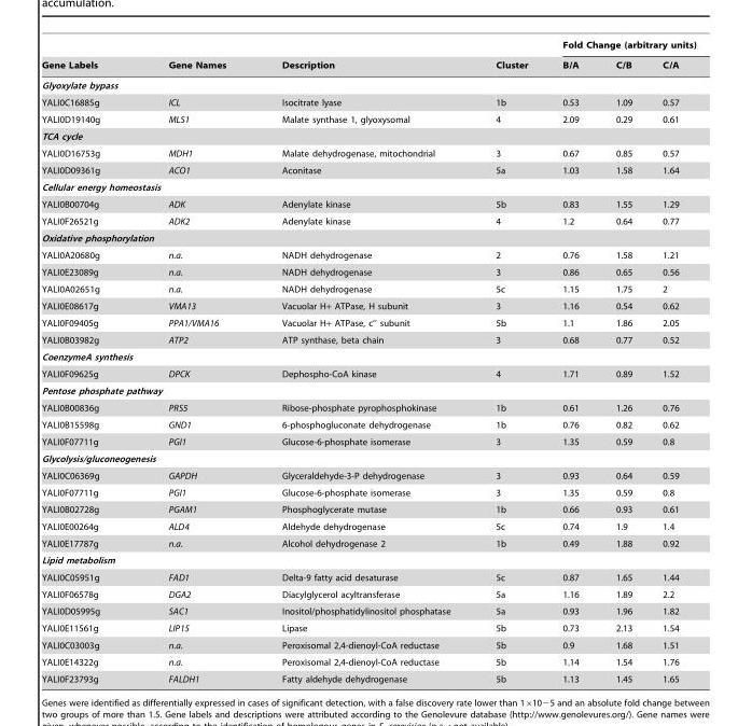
<table><thead><tr><td rowspan="2">Gene Labels</td><td rowspan="2">Gene Names</td><td rowspan="2">Description</td><td rowspan="2">Cluster</td><td colspan="3">Fold Change (arbitrary units)</td></tr><tr><td>B/A</td><td>C/B</td><td>C/A</td></tr></thead><tbody><tr><td colspan="7">Glyoxylate bypass</td></tr><tr><td>YALI0C16885g</td><td>ICL</td><td>Isocitrate lyase</td><td>1b</td><td>0.53</td><td>1.09</td><td>0.57</td></tr><tr><td>YALI0D19140g</td><td>MLS1</td><td>Malate synthase 1, glyoxysomal</td><td>4</td><td>2.09</td><td>0.29</td><td>0.61</td></tr><tr><td colspan="7">TCA cycle</td></tr><tr><td>YALI0D16753g</td><td>MDH1</td><td>Malate dehydrogenase, mitochondrial</td><td>3</td><td>0.67</td><td>0.85</td><td>0.57</td></tr><tr><td>YALI0D09361g</td><td>ACO1</td><td>Aconitase</td><td>5a</td><td>1.03</td><td>1.58</td><td>1.64</td></tr><tr><td colspan="7">Cellular energy homeostasis</td></tr><tr><td>YALI0B00704g</td><td>ADK</td><td>Adenylate kinase</td><td>5b</td><td>0.83</td><td>1.55</td><td>1.29</td></tr><tr><td>YALI0F26521g</td><td>ADK2</td><td>Adenylate kinase</td><td>4</td><td>1.2</td><td>0.64</td><td>0.77</td></tr><tr><td colspan="7">Oxidative phosphorylation</td></tr><tr><td>YALI0A20680g</td><td>n.a.</td><td>NADH dehydrogenase</td><td>2</td><td>0.76</td><td>1.58</td><td>1.21</td></tr><tr><td>YALI0E23089g</td><td>n.a.</td><td>NADH dehydrogenase</td><td>3</td><td>0.86</td><td>0.65</td><td>0.56</td></tr><tr><td>YALI0A02651g</td><td>n.a.</td><td>NADH dehydrogenase</td><td>5c</td><td>1.15</td><td>1.75</td><td>2</td></tr><tr><td>YALI0E08617g</td><td>VMA13</td><td>Vacuolar H+ ATPase, H subunit</td><td>3</td><td>1.16</td><td>0.54</td><td>0.62</td></tr><tr><td>YALI0F09405g</td><td>PPA1/VMA16</td><td>Vacuolar H+ ATPase, c’’ subunit</td><td>5b</td><td>1.1</td><td>1.86</td><td>2.05</td></tr><tr><td>YALI0B03982g</td><td>ATP2</td><td>ATP synthase, beta chain</td><td>3</td><td>0.68</td><td>0.77</td><td>0.52</td></tr><tr><td colspan="7">CoenzymeA synthesis</td></tr><tr><td>YALI0F09625g</td><td>DPCK</td><td>Dephospho-CoA kinase</td><td>4</td><td>1.71</td><td>0.89</td><td>1.52</td></tr><tr><td colspan="7">Pentose phosphate pathway</td></tr><tr><td>YALI0B00836g</td><td>PRS5</td><td>Ribose-phosphate pyrophosphokinase</td><td>1b</td><td>0.61</td><td>1.26</td><td>0.76</td></tr><tr><td>YALI0B15598g</td><td>GND1</td><td>6-phosphogluconate dehydrogenase</td><td>1b</td><td>0.76</td><td>0.82</td><td>0.62</td></tr><tr><td>YALI0F07711g</td><td>PGI1</td><td>Glucose-6-phosphate isomerase</td><td>3</td><td>1.35</td><td>0.59</td><td>0.8</td></tr><tr><td colspan="7">Glycolysis/gluconeogenesis</td></tr><tr><td>YALI0C06369g</td><td>GAPDH</td><td>Glyceraldehyde-3-P dehydrogenase</td><td>3</td><td>0.93</td><td>0.64</td><td>0.59</td></tr><tr><td>YALI0F07711g</td><td>PGI1</td><td>Glucose-6-phosphate isomerase</td><td>3</td><td>1.35</td><td>0.59</td><td>0.8</td></tr><tr><td>YALI0B02728g</td><td>PGAM1</td><td>Phosphoglycerate mutase</td><td>1b</td><td>0.66</td><td>0.93</td><td>0.61</td></tr><tr><td>YALI0E00264g</td><td>ALD4</td><td>Aldehyde dehydrogenase</td><td>5c</td><td>0.74</td><td>1.9</td><td>1.4</td></tr><tr><td>YALI0E17787g</td><td>n.a.</td><td>Alcohol dehydrogenase 2</td><td>1b</td><td>0.49</td><td>1.88</td><td>0.92</td></tr><tr><td colspan="7">Lipid metabolism</td></tr><tr><td>YALI0C05951g</td><td>FAD1</td><td>Delta-9 fatty acid desaturase</td><td>5c</td><td>0.87</td><td>1.65</td><td>1.44</td></tr><tr><td>YALI0F06578g</td><td>DGA2</td><td>Diacylglycerol acyltransferase</td><td>5a</td><td>1.16</td><td>1.89</td><td>2.2</td></tr><tr><td>YALI0D05995g</td><td>SAC1</td><td>Inositol/phosphatidylinositol phosphatase</td><td>5a</td><td>0.93</td><td>1.96</td><td>1.82</td></tr><tr><td>YALI0E11561g</td><td>LIP15</td><td>Lipase</td><td>5b</td><td>0.73</td><td>2.13</td><td>1.54</td></tr><tr><td>YALI0C03003g</td><td>n.a.</td><td>Peroxisomal 2,4-dienoyl-CoA reductase</td><td>5b</td><td>0.9</td><td>1.68</td><td>1.51</td></tr><tr><td>YALI0E14322g</td><td>n.a.</td><td>Peroxisomal 2,4-dienoyl-CoA reductase</td><td>5b</td><td>1.14</td><td>1.54</td><td>1.76</td></tr><tr><td>YALI0F23793g</td><td>FALDH1</td><td>Fatty aldehyde dehydrogenase</td><td>5b</td><td>1.13</td><td>1.45</td><td>1.65</td></tr></tbody></table>